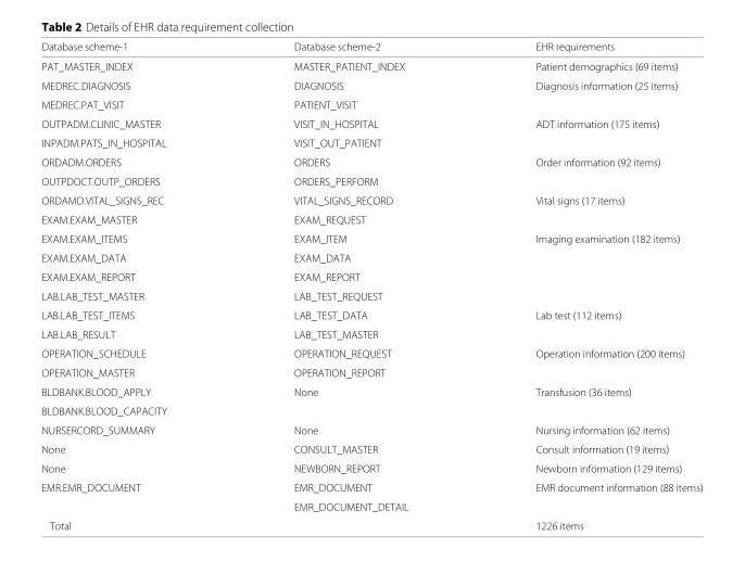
<table><thead><tr><td>Database scheme-1</td><td>Database scheme-2</td><td>EHR requirements</td></tr></thead><tbody><tr><td>PAT_MASTER_INDEX</td><td>MASTER_PATIENT_INDEX</td><td>Patient demographics (69 items)</td></tr><tr><td>MEDREC.DIAGNOSIS</td><td>DIAGNOSIS</td><td>Diagnosis information (25 items)</td></tr><tr><td>MEDREC.PAT_VISIT</td><td>PATIENT_VISIT</td><td></td></tr><tr><td>OUTPADM.CLINIC_MASTER</td><td>VISIT_IN_HOSPITAL</td><td>ADT information (175 items)</td></tr><tr><td>INPADM.PATS_IN_HOSPITAL</td><td>VISIT_OUT_PATIENT</td><td></td></tr><tr><td>ORDADM.ORDERS</td><td>ORDERS</td><td>Order information (92 items)</td></tr><tr><td>OUTPDOCT.OUTP_ORDERS</td><td>ORDERS_PERFORM</td><td></td></tr><tr><td>ORDAMD.VITAL_SIGNS_REC</td><td>VITAL_SIGNS_RECORD</td><td>Vital signs (17 items)</td></tr><tr><td>EXAM.EXAM_MASTER</td><td>EXAM_REQUEST</td><td></td></tr><tr><td>EXAM.EXAM_ITEMS</td><td>EXAM_ITEM</td><td>Imaging examination (182 items)</td></tr><tr><td>EXAM.EXAM_DATA</td><td>EXAM_DATA</td><td></td></tr><tr><td>EXAM.EXAM_REPORT</td><td>EXAM_REPORT</td><td></td></tr><tr><td>LAB.LAB_TEST_MASTER</td><td>LAB_TEST_REQUEST</td><td></td></tr><tr><td>LAB.LAB_TEST_ITEMS</td><td>LAB_TEST_DATA</td><td>Lab test (112 items)</td></tr><tr><td>LAB.LAB_RESULT</td><td>LAB_TEST_MASTER</td><td></td></tr><tr><td>OPERATION_SCHEDULE</td><td>OPERATION_REQUEST</td><td>Operation information (200 items)</td></tr><tr><td>OPERATION_MASTER</td><td>OPERATION_REPORT</td><td></td></tr><tr><td>BLDBANK.BLOOD_APPLY</td><td>None</td><td>Transfusion (36 items)</td></tr><tr><td colspan="3">BLDBANK.BLOOD_CAPACITY</td></tr><tr><td>NURSERCORD_SUMMARY</td><td>None</td><td>Nursing information (62 items)</td></tr><tr><td>None</td><td>CONSULT_MASTER</td><td>Consult information (19 items)</td></tr><tr><td>None</td><td>NEWBORN_REPORT</td><td>Newborn information (129 items)</td></tr><tr><td rowspan="2">EMR.EMR_DOCUMENT</td><td>EMR_DOCUMENT</td><td>EMR document information (88 items)</td></tr><tr><td>EMR_DOCUMENT_DETAIL</td><td></td></tr><tr><td colspan="2">Total</td><td>1226 items</td></tr></tbody></table>